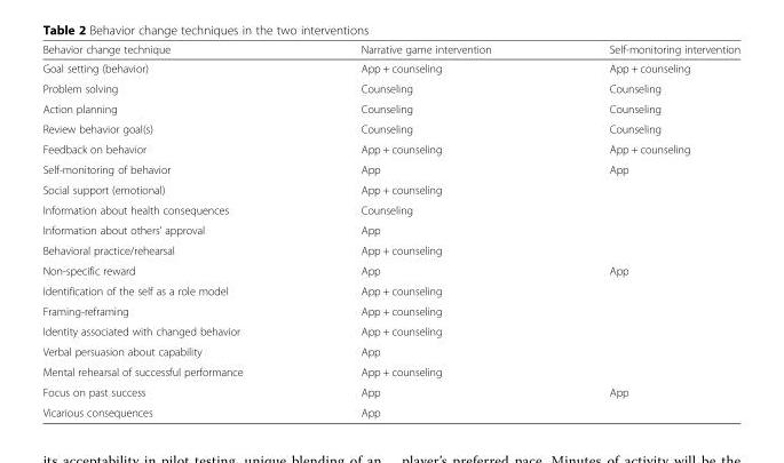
<table><thead><tr><td>Behavior change technique</td><td>Narrative game intervention</td><td>Self-monitoring intervention</td></tr></thead><tbody><tr><td>Goal setting (behavior)</td><td>App + counseling</td><td>App + counseling</td></tr><tr><td>Problem solving</td><td>Counseling</td><td>Counseling</td></tr><tr><td>Action planning</td><td>Counseling</td><td>Counseling</td></tr><tr><td>Review behavior goal(s)</td><td>Counseling</td><td>Counseling</td></tr><tr><td>Feedback on behavior</td><td>App + counseling</td><td>App + counseling</td></tr><tr><td>Self-monitoring of behavior</td><td>App</td><td>App</td></tr><tr><td>Social support (emotional)</td><td>App + counseling</td><td></td></tr><tr><td>Information about health consequences</td><td>Counseling</td><td></td></tr><tr><td>Information about others’ approval</td><td>App</td><td></td></tr><tr><td>Behavioral practice/rehearsal</td><td>App + counseling</td><td></td></tr><tr><td>Non-specific reward</td><td>App</td><td>App</td></tr><tr><td>Identification of the self as a role model</td><td>App + counseling</td><td></td></tr><tr><td>Framing-reframing</td><td>App + counseling</td><td></td></tr><tr><td>Identity associated with changed behavior</td><td>App + counseling</td><td></td></tr><tr><td>Verbal persuasion about capability</td><td>App</td><td></td></tr><tr><td>Mental rehearsal of successful performance</td><td>App + counseling</td><td></td></tr><tr><td>Focus on past success</td><td>App</td><td>App</td></tr><tr><td>Vicarious consequences</td><td>App</td><td></td></tr></tbody></table>